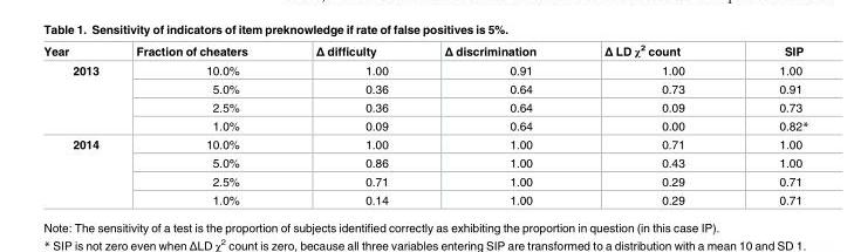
<table><thead><tr><td>Year</td><td>Fraction of cheaters</td><td>Δ difficulty</td><td>Δ discrimination</td><td>Δ LD χ<sup>2</sup> count</td><td>SIP</td></tr></thead><tbody><tr><td rowspan="4">2013</td><td>10.0%</td><td>1.00</td><td>0.91</td><td>1.00</td><td>1.00</td></tr><tr><td>5.0%</td><td>0.36</td><td>0.64</td><td>0.73</td><td>0.91</td></tr><tr><td>2.5%</td><td>0.36</td><td>0.64</td><td>0.09</td><td>0.73</td></tr><tr><td>1.0%</td><td>0.09</td><td>0.64</td><td>0.00</td><td>0.82*</td></tr><tr><td rowspan="4">2014</td><td>10.0%</td><td>1.00</td><td>1.00</td><td>0.71</td><td>1.00</td></tr><tr><td>5.0%</td><td>0.86</td><td>1.00</td><td>0.43</td><td>1.00</td></tr><tr><td>2.5%</td><td>0.71</td><td>1.00</td><td>0.29</td><td>0.71</td></tr><tr><td>1.0%</td><td>0.14</td><td>1.00</td><td>0.29</td><td>0.71</td></tr></tbody></table>